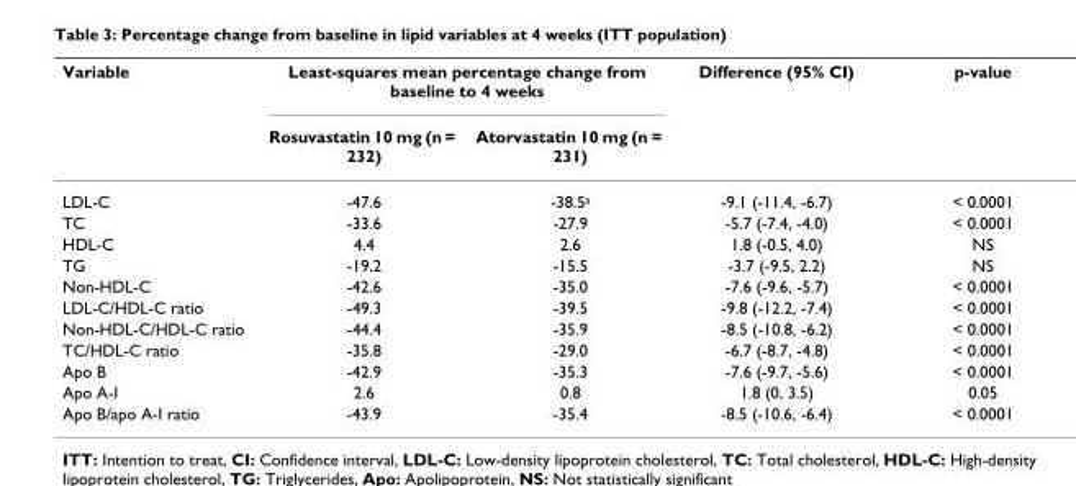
<table><thead><tr><td rowspan="2">Variable</td><td colspan="2">Least-squares mean percentage change from baseline to 4 weeks</td><td rowspan="2">Difference (95% CI)</td><td rowspan="2">p-value</td></tr><tr><td>Rosuvastatin 10 mg (n = 232)</td><td>Atorvastatin 10 mg (n = 231)</td></tr></thead><tbody><tr><td>LDL-C</td><td>-47.6</td><td>-38.5<sup>a</sup></td><td>-9.1 (-11.4, -6.7)</td><td>&lt; 0.0001</td></tr><tr><td>TC</td><td>-33.6</td><td>-27.9</td><td>-5.7 (-7.4, -4.0)</td><td>&lt; 0.0001</td></tr><tr><td>HDL-C</td><td>4.4</td><td>2.6</td><td>1.8 (-0.5, 4.0)</td><td>NS</td></tr><tr><td>TG</td><td>-19.2</td><td>-15.5</td><td>-3.7 (-9.5, 2.2)</td><td>NS</td></tr><tr><td>Non-HDL-C</td><td>-42.6</td><td>-35.0</td><td>-7.6 (-9.6, -5.7)</td><td>&lt; 0.0001</td></tr><tr><td>LDL-C/HDL-C ratio</td><td>-49.3</td><td>-39.5</td><td>-9.8 (-12.2, -7.4)</td><td>&lt; 0.0001</td></tr><tr><td>Non-HDL-C/HDL-C ratio</td><td>-44.4</td><td>-35.9</td><td>-8.5 (-10.8, -6.2)</td><td>&lt; 0.0001</td></tr><tr><td>TC/HDL-C ratio</td><td>-35.8</td><td>-29.0</td><td>-6.7 (-8.7, -4.8)</td><td>&lt; 0.0001</td></tr><tr><td>Apo B</td><td>-42.9</td><td>-35.3</td><td>-7.6 (-9.7, -5.6)</td><td>&lt; 0.0001</td></tr><tr><td>Apo A-I</td><td>2.6</td><td>0.8</td><td>1.8 (0, 3.5)</td><td>0.05</td></tr><tr><td>Apo B/apo A-I ratio</td><td>-43.9</td><td>-35.4</td><td>-8.5 (-10.6, -6.4)</td><td>&lt; 0.0001</td></tr></tbody></table>